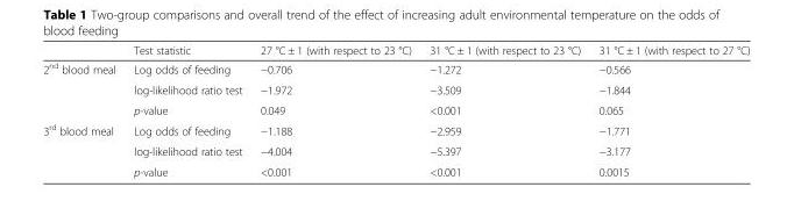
<table><thead><tr><td></td><td>Test statistic</td><td>27 °C ± 1 (with respect to 23 °C)</td><td>31 °C ± 1 (with respect to 23 °C)</td><td>31 °C ± 1 (with respect to 27 °C)</td></tr></thead><tbody><tr><td rowspan="3">2<sup>nd</sup> blood meal</td><td>Log odds of feeding</td><td>−0.706</td><td>−1.272</td><td>−0.566</td></tr><tr><td>log-likelihood ratio test</td><td>−1.972</td><td>−3.509</td><td>−1.844</td></tr><tr><td>p-value</td><td>0.049</td><td>&lt;0.001</td><td>0.065</td></tr><tr><td rowspan="3">3<sup>rd</sup> blood meal</td><td>Log odds of feeding</td><td>−1.188</td><td>−2.959</td><td>−1.771</td></tr><tr><td>log-likelihood ratio test</td><td>−4.004</td><td>−5.397</td><td>−3.177</td></tr><tr><td>p-value</td><td>&lt;0.001</td><td>&lt;0.001</td><td>0.0015</td></tr></tbody></table>